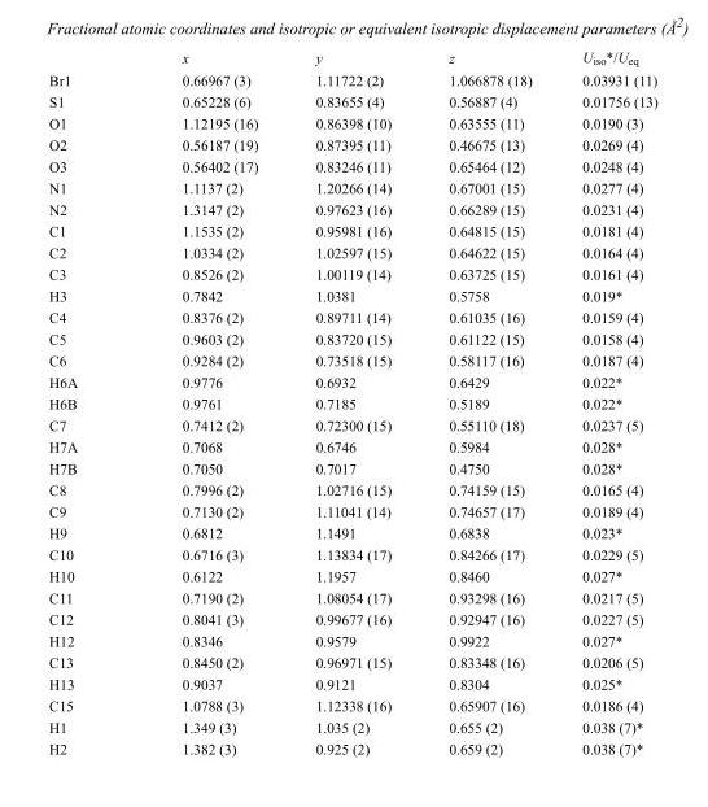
<table><thead><tr><td></td><td>x</td><td>y</td><td>z</td><td>U<sub>iso</sub>*/U<sub>eq</sub></td></tr></thead><tbody><tr><td>Br1</td><td>0.66967 (3)</td><td>1.11722 (2)</td><td>1.066878 (18)</td><td>0.03931 (11)</td></tr><tr><td>S1</td><td>0.65228 (6)</td><td>0.83655 (4)</td><td>0.56887 (4)</td><td>0.01756 (13)</td></tr><tr><td>O1</td><td>1.12195 (16)</td><td>0.86398 (10)</td><td>0.63555 (11)</td><td>0.0190 (3)</td></tr><tr><td>O2</td><td>0.56187 (19)</td><td>0.87395 (11)</td><td>0.46675 (13)</td><td>0.0269 (4)</td></tr><tr><td>O3</td><td>0.56402 (17)</td><td>0.83246 (11)</td><td>0.65464 (12)</td><td>0.0248 (4)</td></tr><tr><td>N1</td><td>1.1137 (2)</td><td>1.20266 (14)</td><td>0.67001 (15)</td><td>0.0277 (4)</td></tr><tr><td>N2</td><td>1.3147 (2)</td><td>0.97623 (16)</td><td>0.66289 (15)</td><td>0.0231 (4)</td></tr><tr><td>C1</td><td>1.1535 (2)</td><td>0.95981 (16)</td><td>0.64815 (15)</td><td>0.0181 (4)</td></tr><tr><td>C2</td><td>1.0334 (2)</td><td>1.02597 (15)</td><td>0.64622 (15)</td><td>0.0164 (4)</td></tr><tr><td>C3</td><td>0.8526 (2)</td><td>1.00119 (14)</td><td>0.63725 (15)</td><td>0.0161 (4)</td></tr><tr><td>H3</td><td>0.7842</td><td>1.0381</td><td>0.5758</td><td>0.019*</td></tr><tr><td>C4</td><td>0.8376 (2)</td><td>0.89711 (14)</td><td>0.61035 (16)</td><td>0.0159 (4)</td></tr><tr><td>C5</td><td>0.9603 (2)</td><td>0.83720 (15)</td><td>0.61122 (15)</td><td>0.0158 (4)</td></tr><tr><td>C6</td><td>0.9284 (2)</td><td>0.73518 (15)</td><td>0.58117 (16)</td><td>0.0187 (4)</td></tr><tr><td>H6A</td><td>0.9776</td><td>0.6932</td><td>0.6429</td><td>0.022*</td></tr><tr><td>H6B</td><td>0.9761</td><td>0.7185</td><td>0.5189</td><td>0.022*</td></tr><tr><td>C7</td><td>0.7412 (2)</td><td>0.72300 (15)</td><td>0.55110 (18)</td><td>0.0237 (5)</td></tr><tr><td>H7A</td><td>0.7068</td><td>0.6746</td><td>0.5984</td><td>0.028*</td></tr><tr><td>H7B</td><td>0.7050</td><td>0.7017</td><td>0.4750</td><td>0.028*</td></tr><tr><td>C8</td><td>0.7996 (2)</td><td>1.02716 (15)</td><td>0.74159 (15)</td><td>0.0165 (4)</td></tr><tr><td>C9</td><td>0.7130 (2)</td><td>1.11041 (14)</td><td>0.74657 (17)</td><td>0.0189 (4)</td></tr><tr><td>H9</td><td>0.6812</td><td>1.1491</td><td>0.6838</td><td>0.023*</td></tr><tr><td>C10</td><td>0.6716 (3)</td><td>1.13834 (17)</td><td>0.84266 (17)</td><td>0.0229 (5)</td></tr><tr><td>H10</td><td>0.6122</td><td>1.1957</td><td>0.8460</td><td>0.027*</td></tr><tr><td>C11</td><td>0.7190 (2)</td><td>1.08054 (17)</td><td>0.93298 (16)</td><td>0.0217 (5)</td></tr><tr><td>C12</td><td>0.8041 (3)</td><td>0.99677 (16)</td><td>0.92947 (16)</td><td>0.0227 (5)</td></tr><tr><td>H12</td><td>0.8346</td><td>0.9579</td><td>0.9922</td><td>0.027*</td></tr><tr><td>C13</td><td>0.8450 (2)</td><td>0.96971 (15)</td><td>0.83348 (16)</td><td>0.0206 (5)</td></tr><tr><td>H13</td><td>0.9037</td><td>0.9121</td><td>0.8304</td><td>0.025*</td></tr><tr><td>C15</td><td>1.0788 (3)</td><td>1.12338 (16)</td><td>0.65907 (16)</td><td>0.0186 (4)</td></tr><tr><td>H1</td><td>1.349 (3)</td><td>1.035 (2)</td><td>0.655 (2)</td><td>0.038 (7)*</td></tr><tr><td>H2</td><td>1.382 (3)</td><td>0.925 (2)</td><td>0.659 (2)</td><td>0.038 (7)*</td></tr></tbody></table>